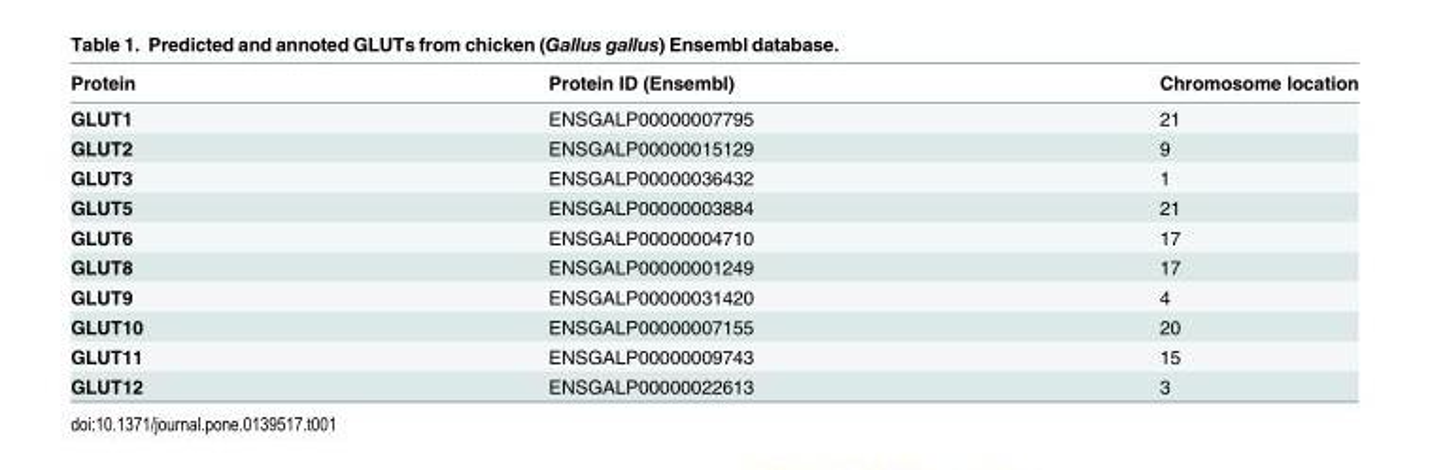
<table><thead><tr><td>Protein</td><td>Protein ID (Ensembl)</td><td>Chromosome location</td></tr></thead><tbody><tr><td>GLUT1</td><td>ENSGALP00000007795</td><td>21</td></tr><tr><td>GLUT2</td><td>ENSGALP00000015129</td><td>9</td></tr><tr><td>GLUT3</td><td>ENSGALP00000036432</td><td>1</td></tr><tr><td>GLUT5</td><td>ENSGALP00000003884</td><td>21</td></tr><tr><td>GLUT6</td><td>ENSGALP00000004710</td><td>17</td></tr><tr><td>GLUT8</td><td>ENSGALP00000001249</td><td>17</td></tr><tr><td>GLUT9</td><td>ENSGALP00000031420</td><td>4</td></tr><tr><td>GLUT10</td><td>ENSGALP00000007155</td><td>20</td></tr><tr><td>GLUT11</td><td>ENSGALP00000009743</td><td>15</td></tr><tr><td>GLUT12</td><td>ENSGALP00000022613</td><td>3</td></tr></tbody></table>